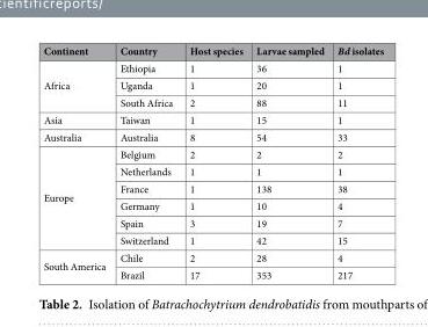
<table><thead><tr><td>Continent</td><td>Country</td><td>Host species</td><td>Larvae sampled</td><td>Bd isolates</td></tr></thead><tbody><tr><td rowspan="3">Africa</td><td>Ethiopia</td><td>1</td><td>36</td><td>1</td></tr><tr><td>Uganda</td><td>1</td><td>20</td><td>1</td></tr><tr><td>South Africa</td><td>2</td><td>88</td><td>11</td></tr><tr><td>Asia</td><td>Taiwan</td><td>1</td><td>15</td><td>1</td></tr><tr><td>Australia</td><td>Australia</td><td>8</td><td>54</td><td>33</td></tr><tr><td rowspan="6">Europe</td><td>Belgium</td><td>2</td><td>2</td><td>2</td></tr><tr><td>Netherlands</td><td>1</td><td>1</td><td>1</td></tr><tr><td>France</td><td>1</td><td>138</td><td>38</td></tr><tr><td>Germany</td><td>1</td><td>10</td><td>4</td></tr><tr><td>Spain</td><td>3</td><td>19</td><td>7</td></tr><tr><td>Switzerland</td><td>1</td><td>42</td><td>15</td></tr><tr><td rowspan="2">South America</td><td>Chile</td><td>2</td><td>28</td><td>4</td></tr><tr><td>Brazil</td><td>17</td><td>353</td><td>217</td></tr></tbody></table>